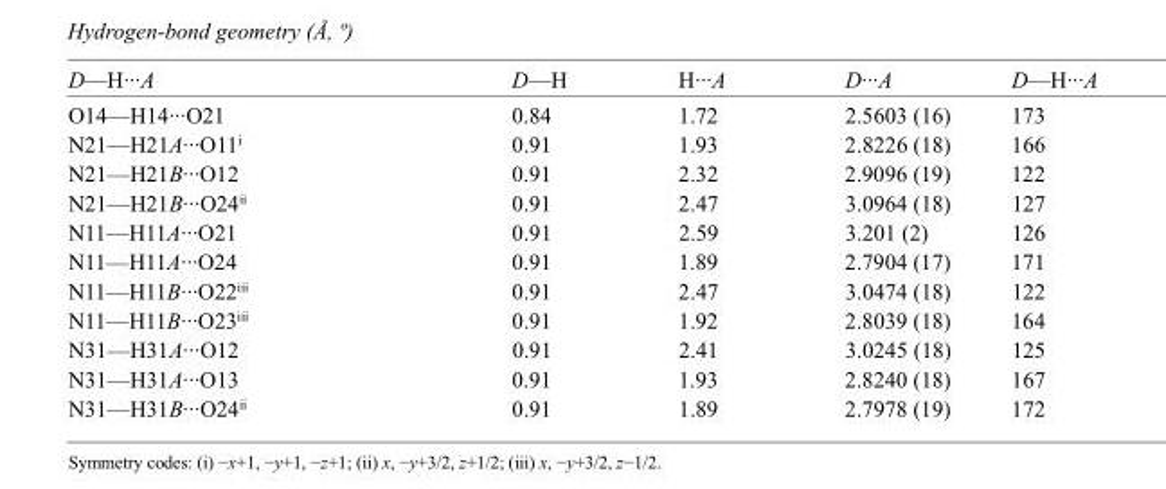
<table><tbody><tr><td>D—H···A</td><td>D—H</td><td>H···A</td><td>D···A</td><td>D—H···A</td></tr><tr><td>O14—H14···O21</td><td>0.84</td><td>1.72</td><td>2.5603 (16)</td><td>173</td></tr><tr><td>N21—H21A···O11<sup>i</sup></td><td>0.91</td><td>1.93</td><td>2.8226 (18)</td><td>166</td></tr><tr><td>N21—H21B···O12</td><td>0.91</td><td>2.32</td><td>2.9096 (19)</td><td>122</td></tr><tr><td>N21—H21B···O24<sup>ii</sup></td><td>0.91</td><td>2.47</td><td>3.0964 (18)</td><td>127</td></tr><tr><td>N11—H11A···O21</td><td>0.91</td><td>2.59</td><td>3.201 (2)</td><td>126</td></tr><tr><td>N11—H11A···O24</td><td>0.91</td><td>1.89</td><td>2.7904 (17)</td><td>171</td></tr><tr><td>N11—H11B···O22<sup>iii</sup></td><td>0.91</td><td>2.47</td><td>3.0474 (18)</td><td>122</td></tr><tr><td>N11—H11B···O23<sup>iii</sup></td><td>0.91</td><td>1.92</td><td>2.8039 (18)</td><td>164</td></tr><tr><td>N31—H31A···O12</td><td>0.91</td><td>2.41</td><td>3.0245 (18)</td><td>125</td></tr><tr><td>N31—H31A···O13</td><td>0.91</td><td>1.93</td><td>2.8240 (18)</td><td>167</td></tr><tr><td>N31—H31B···O24<sup>ii</sup></td><td>0.91</td><td>1.89</td><td>2.7978 (19)</td><td>172</td></tr></tbody></table>